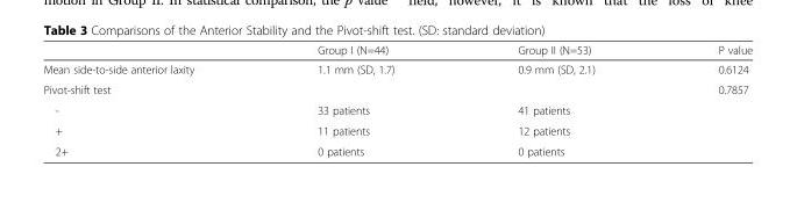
<table><thead><tr><td></td><td>Group I (N=44)</td><td>Group II (N=53)</td><td>P value</td></tr></thead><tbody><tr><td>Mean side-to-side anterior laxity</td><td>1.1 mm (SD, 1.7)</td><td>0.9 mm (SD, 2.1)</td><td>0.6124</td></tr><tr><td>Pivot-shift test</td><td></td><td></td><td>0.7857</td></tr><tr><td>-</td><td>33 patients</td><td>41 patients</td><td></td></tr><tr><td>+</td><td>11 patients</td><td>12 patients</td><td></td></tr><tr><td>2+</td><td>0 patients</td><td>0 patients</td><td></td></tr></tbody></table>